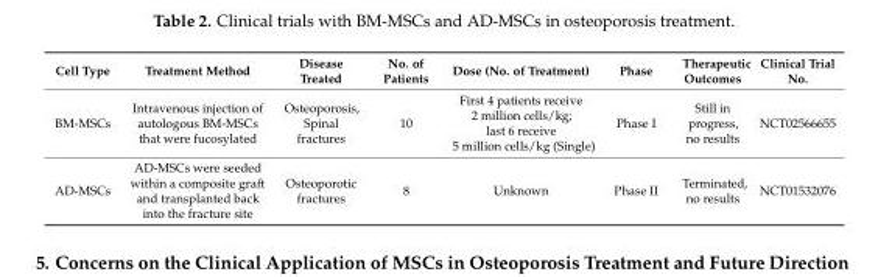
<table><thead><tr><td>Cell Type</td><td>Treatment Method</td><td>Disease Treated</td><td>No. of Patients</td><td>Dose (No. of Treatment)</td><td>Phase</td><td>Therapeutic Outcomes</td><td>Clinical Trial No.</td></tr></thead><tbody><tr><td>BM-MSCs</td><td>Intravenous injection of autologous BM-MSCs that were fucosylated</td><td>Osteoporosis, Spinal fractures</td><td>10</td><td>First 4 patients receive 2 million cells/kg; last 6 receive 5 million cells/kg (Single)</td><td>Phase I</td><td>Still in progress, no results</td><td>NCT02566655</td></tr><tr><td>AD-MSCs</td><td>AD-MSCs were seeded within a composite graft and transplanted back into the fracture site</td><td>Osteoporotic fractures</td><td>8</td><td>Unknown</td><td>Phase II</td><td>Terminated, no results</td><td>NCT01532076</td></tr></tbody></table>